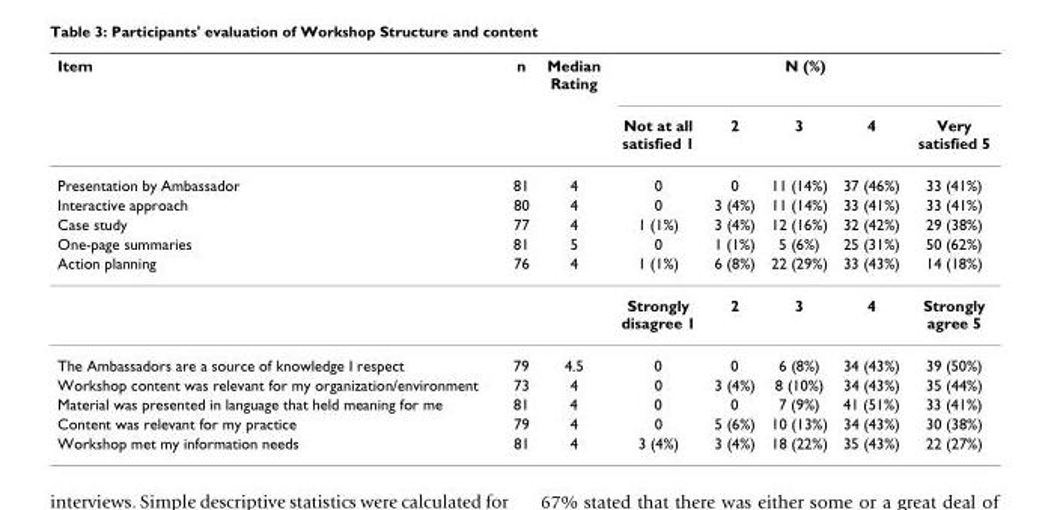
<table><thead><tr><td rowspan="2">Item</td><td rowspan="2">n</td><td rowspan="2">Median Rating</td><td colspan="5">N (%)</td></tr><tr><td>Not at all satisfied 1</td><td>2</td><td>3</td><td>4</td><td>Very satisfied 5</td></tr></thead><tbody><tr><td>Presentation by Ambassador</td><td>81</td><td>4</td><td>0</td><td>0</td><td>11 (14%)</td><td>37 (46%)</td><td>33 (41%)</td></tr><tr><td>Interactive approach</td><td>80</td><td>4</td><td>0</td><td>3 (4%)</td><td>11 (14%)</td><td>33 (41%)</td><td>33 (41%)</td></tr><tr><td>Case study</td><td>77</td><td>4</td><td>1 (1%)</td><td>3 (4%)</td><td>12 (16%)</td><td>32 (42%)</td><td>29 (38%)</td></tr><tr><td>One-page summaries</td><td>81</td><td>5</td><td>0</td><td>1 (1%)</td><td>5 (6%)</td><td>25 (31%)</td><td>50 (62%)</td></tr><tr><td rowspan="2">Action planning</td><td>76</td><td>4</td><td>1 (1%)</td><td>6 (8%)</td><td>22 (29%)</td><td>33 (43%)</td><td>14 (18%)</td></tr><tr><td></td><td></td><td>Strongly disagree 1</td><td>2</td><td>3</td><td>4</td><td>Strongly agree 5</td></tr><tr><td>The Ambassadors are a source of knowledge I respect</td><td>79</td><td>4.5</td><td>0</td><td>0</td><td>6 (8%)</td><td>34 (43%)</td><td>39 (50%)</td></tr><tr><td>Workshop content was relevant for my organization/environment</td><td>73</td><td>4</td><td>0</td><td>3 (4%)</td><td>8 (10%)</td><td>34 (43%)</td><td>35 (44%)</td></tr><tr><td>Material was presented in language that held meaning for me</td><td>81</td><td>4</td><td>0</td><td>0</td><td>7 (9%)</td><td>41 (51%)</td><td>33 (41%)</td></tr><tr><td>Content was relevant for my practice</td><td>79</td><td>4</td><td>0</td><td>5 (6%)</td><td>10 (13%)</td><td>34 (43%)</td><td>30 (38%)</td></tr><tr><td>Workshop met my information needs</td><td>81</td><td>4</td><td>3 (4%)</td><td>3 (4%)</td><td>18 (22%)</td><td>35 (43%)</td><td>22 (27%)</td></tr></tbody></table>